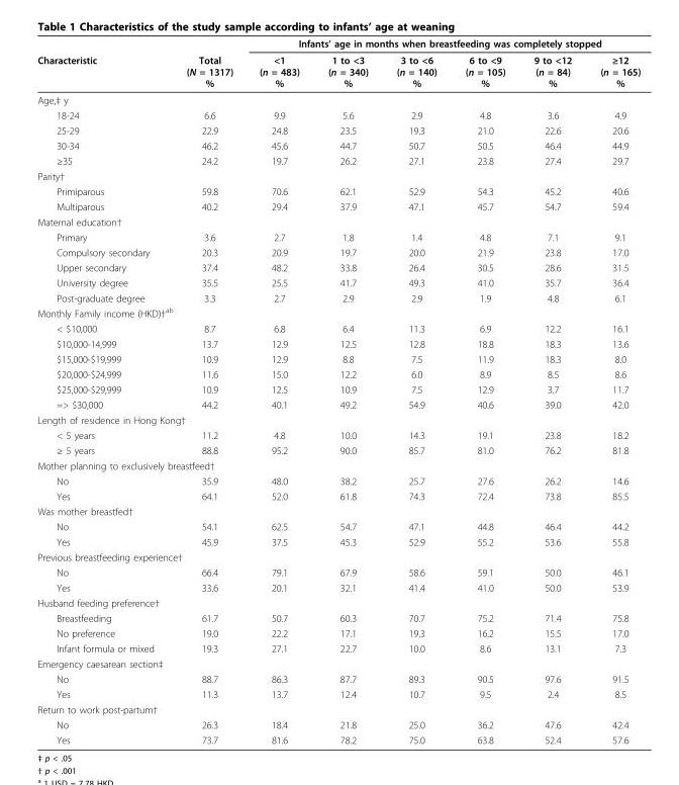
<table><thead><tr><td rowspan="2">Characteristic</td><td rowspan="2">Total (N = 1317) %</td><td colspan="6">Infants’ age in months when breastfeeding was completely stopped</td></tr><tr><td>&lt;1 (n = 483) %</td><td>1 to &lt;3 (n = 340) %</td><td>3 to &lt;6 (n = 140) %</td><td>6 to &lt;9 (n = 105) %</td><td>9 to &lt;12 (n = 84) %</td><td>≥12 (n = 165) %</td></tr></thead><tbody><tr><td colspan="8">Age,‡ y</td></tr><tr><td>18-24</td><td>6.6</td><td>9.9</td><td>5.6</td><td>2.9</td><td>4.8</td><td>3.6</td><td>4.9</td></tr><tr><td>25-29</td><td>22.9</td><td>24.8</td><td>23.5</td><td>19.3</td><td>21.0</td><td>22.6</td><td>20.6</td></tr><tr><td>30-34</td><td>46.2</td><td>45.6</td><td>44.7</td><td>50.7</td><td>50.5</td><td>46.4</td><td>44.9</td></tr><tr><td>≥35</td><td>24.2</td><td>19.7</td><td>26.2</td><td>27.1</td><td>23.8</td><td>27.4</td><td>29.7</td></tr><tr><td colspan="8">Parity†</td></tr><tr><td>Primiparous</td><td>59.8</td><td>70.6</td><td>62.1</td><td>52.9</td><td>54.3</td><td>45.2</td><td>40.6</td></tr><tr><td>Multiparous</td><td>40.2</td><td>29.4</td><td>37.9</td><td>47.1</td><td>45.7</td><td>54.7</td><td>59.4</td></tr><tr><td colspan="8">Maternal education†</td></tr><tr><td>Primary</td><td>3.6</td><td>2.7</td><td>1.8</td><td>1.4</td><td>4.8</td><td>7.1</td><td>9.1</td></tr><tr><td>Compulsory secondary</td><td>20.3</td><td>20.9</td><td>19.7</td><td>20.0</td><td>21.9</td><td>23.8</td><td>17.0</td></tr><tr><td>Upper secondary</td><td>37.4</td><td>48.2</td><td>33.8</td><td>26.4</td><td>30.5</td><td>28.6</td><td>31.5</td></tr><tr><td>University degree</td><td>35.5</td><td>25.5</td><td>41.7</td><td>49.3</td><td>41.0</td><td>35.7</td><td>36.4</td></tr><tr><td>Post-graduate degree</td><td>3.3</td><td>2.7</td><td>2.9</td><td>2.9</td><td>1.9</td><td>4.8</td><td>6.1</td></tr><tr><td colspan="8">Monthly Family income (HKD)†<sup>ab</sup></td></tr><tr><td>&lt; $10,000</td><td>8.7</td><td>6.8</td><td>6.4</td><td>11.3</td><td>6.9</td><td>12.2</td><td>16.1</td></tr><tr><td>$10,000-14,999</td><td>13.7</td><td>12.9</td><td>12.5</td><td>12.8</td><td>18.8</td><td>18.3</td><td>13.6</td></tr><tr><td>$15,000-$19,999</td><td>10.9</td><td>12.9</td><td>8.8</td><td>7.5</td><td>11.9</td><td>18.3</td><td>8.0</td></tr><tr><td>$20,000-$24,999</td><td>11.6</td><td>15.0</td><td>12.2</td><td>6.0</td><td>8.9</td><td>8.5</td><td>8.6</td></tr><tr><td>$25,000-$29,999</td><td>10.9</td><td>12.5</td><td>10.9</td><td>7.5</td><td>12.9</td><td>3.7</td><td>11.7</td></tr><tr><td>=&gt; $30,000</td><td>44.2</td><td>40.1</td><td>49.2</td><td>54.9</td><td>40.6</td><td>39.0</td><td>42.0</td></tr><tr><td colspan="8">Length of residence in Hong Kong†</td></tr><tr><td>&lt; 5 years</td><td>11.2</td><td>4.8</td><td>10.0</td><td>14.3</td><td>19.1</td><td>23.8</td><td>18.2</td></tr><tr><td>≥ 5 years</td><td>88.8</td><td>95.2</td><td>90.0</td><td>85.7</td><td>81.0</td><td>76.2</td><td>81.8</td></tr><tr><td colspan="8">Mother planning to exclusively breastfeed†</td></tr><tr><td>No</td><td>35.9</td><td>48.0</td><td>38.2</td><td>25.7</td><td>27.6</td><td>26.2</td><td>14.6</td></tr><tr><td>Yes</td><td>64.1</td><td>52.0</td><td>61.8</td><td>74.3</td><td>72.4</td><td>73.8</td><td>85.5</td></tr><tr><td colspan="8">Was mother breastfed†</td></tr><tr><td>No</td><td>54.1</td><td>62.5</td><td>54.7</td><td>47.1</td><td>44.8</td><td>46.4</td><td>44.2</td></tr><tr><td>Yes</td><td>45.9</td><td>37.5</td><td>45.3</td><td>52.9</td><td>55.2</td><td>53.6</td><td>55.8</td></tr><tr><td colspan="8">Previous breastfeeding experience†</td></tr><tr><td>No</td><td>66.4</td><td>79.1</td><td>67.9</td><td>58.6</td><td>59.1</td><td>50.0</td><td>46.1</td></tr><tr><td>Yes</td><td>33.6</td><td>20.1</td><td>32.1</td><td>41.4</td><td>41.0</td><td>50.0</td><td>53.9</td></tr><tr><td colspan="8">Husband feeding preference†</td></tr><tr><td>Breastfeeding</td><td>61.7</td><td>50.7</td><td>60.3</td><td>70.7</td><td>75.2</td><td>71.4</td><td>75.8</td></tr><tr><td>No preference</td><td>19.0</td><td>22.2</td><td>17.1</td><td>19.3</td><td>16.2</td><td>15.5</td><td>17.0</td></tr><tr><td>Infant formula or mixed</td><td>19.3</td><td>27.1</td><td>22.7</td><td>10.0</td><td>8.6</td><td>13.1</td><td>7.3</td></tr><tr><td colspan="8">Emergency caesarean section‡</td></tr><tr><td>No</td><td>88.7</td><td>86.3</td><td>87.7</td><td>89.3</td><td>90.5</td><td>97.6</td><td>91.5</td></tr><tr><td>Yes</td><td>11.3</td><td>13.7</td><td>12.4</td><td>10.7</td><td>9.5</td><td>2.4</td><td>8.5</td></tr><tr><td colspan="8">Return to work post-partum†</td></tr><tr><td>No</td><td>26.3</td><td>18.4</td><td>21.8</td><td>25.0</td><td>36.2</td><td>47.6</td><td>42.4</td></tr><tr><td>Yes</td><td>73.7</td><td>81.6</td><td>78.2</td><td>75.0</td><td>63.8</td><td>52.4</td><td>57.6</td></tr></tbody></table>